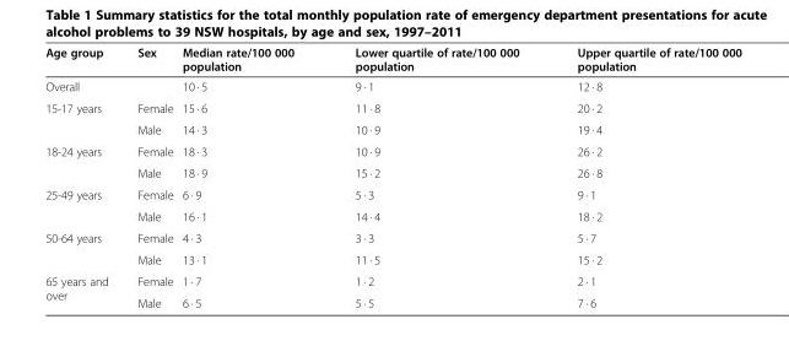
<table><thead><tr><td>Age group</td><td>Sex</td><td>Median rate/100 000 population</td><td>Lower quartile of rate/100 000 population</td><td>Upper quartile of rate/100 000 population</td></tr></thead><tbody><tr><td>Overall</td><td></td><td>10 · 5</td><td>9 · 1</td><td>12 · 8</td></tr><tr><td rowspan="2">15-17 years</td><td>Female</td><td>15 · 6</td><td>11 · 8</td><td>20 · 2</td></tr><tr><td>Male</td><td>14 · 3</td><td>10 · 9</td><td>19 · 4</td></tr><tr><td rowspan="2">18-24 years</td><td>Female</td><td>18 · 3</td><td>10 · 9</td><td>26 · 2</td></tr><tr><td>Male</td><td>18 · 9</td><td>15 · 2</td><td>26 · 8</td></tr><tr><td rowspan="2">25-49 years</td><td>Female</td><td>6 · 9</td><td>5 · 3</td><td>9 · 1</td></tr><tr><td>Male</td><td>16 · 1</td><td>14 · 4</td><td>18 · 2</td></tr><tr><td rowspan="2">50-64 years</td><td>Female</td><td>4 · 3</td><td>3 · 3</td><td>5 · 7</td></tr><tr><td>Male</td><td>13 · 1</td><td>11 · 5</td><td>15 · 2</td></tr><tr><td rowspan="2">65 years and over</td><td>Female</td><td>1 · 7</td><td>1 · 2</td><td>2 · 1</td></tr><tr><td>Male</td><td>6 · 5</td><td>5 · 5</td><td>7 · 6</td></tr></tbody></table>